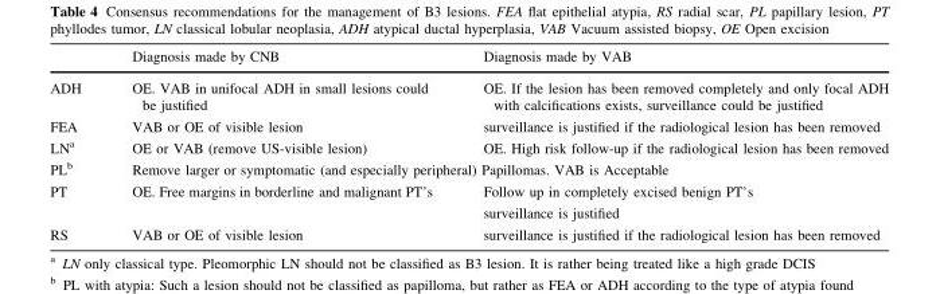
<table><thead><tr><td></td><td>Diagnosis made by CNB</td><td>Diagnosis made by VAB</td></tr></thead><tbody><tr><td>ADH</td><td>OE. VAB in unifocal ADH in small lesions could be justified</td><td>OE. If the lesion has been removed completely and only focal ADH with calcifications exists, surveillance could be justified</td></tr><tr><td>FEA</td><td>VAB or OE of visible lesion</td><td>surveillance is justified if the radiological lesion has been removed</td></tr><tr><td>LN<sup>a</sup></td><td>OE or VAB (remove US-visible lesion)</td><td>OE. High risk follow-up if the radiological lesion has been removed</td></tr><tr><td>PL<sup>b</sup></td><td colspan="2">Remove larger or symptomatic (and especially peripheral) Papillomas. VAB is Acceptable</td></tr><tr><td>PT</td><td>OE. Free margins in borderline and malignant PT’s</td><td>Follow up in completely excised benign PT’s surveillance is justified</td></tr><tr><td>RS</td><td>VAB or OE of visible lesion</td><td>surveillance is justified if the radiological lesion has been removed</td></tr></tbody></table>